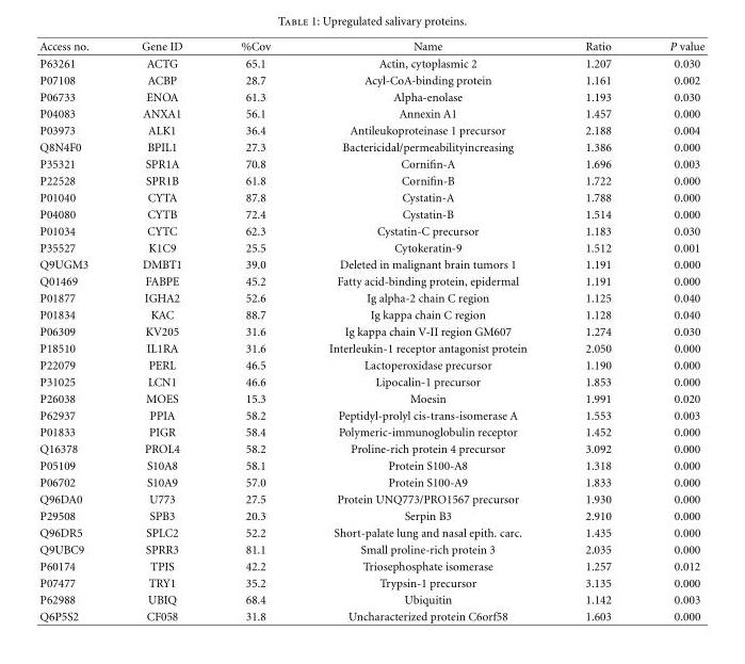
<table><thead><tr><td>Access no.</td><td>Gene ID</td><td>%Cov</td><td>Name</td><td>Ratio</td><td>P value</td></tr></thead><tbody><tr><td>P63261</td><td>ACTG</td><td>65.1</td><td>Actin, cytoplasmic 2</td><td>1.207</td><td>0.030</td></tr><tr><td>P07108</td><td>ACBP</td><td>28.7</td><td>Acyl-CoA-binding protein</td><td>1.161</td><td>0.002</td></tr><tr><td>P06733</td><td>ENOA</td><td>61.3</td><td>Alpha-enolase</td><td>1.193</td><td>0.030</td></tr><tr><td>P04083</td><td>ANXA1</td><td>56.1</td><td>Annexin A1</td><td>1.457</td><td>0.000</td></tr><tr><td>P03973</td><td>ALK1</td><td>36.4</td><td>Antileukoproteinase 1 precursor</td><td>2.188</td><td>0.004</td></tr><tr><td>Q8N4F0</td><td>BPIL1</td><td>27.3</td><td>Bactericidal/permeabilityincreasing</td><td>1.386</td><td>0.000</td></tr><tr><td>P35321</td><td>SPR1A</td><td>70.8</td><td>Cornifin-A</td><td>1.696</td><td>0.003</td></tr><tr><td>P22528</td><td>SPR1B</td><td>61.8</td><td>Cornifin-B</td><td>1.722</td><td>0.000</td></tr><tr><td>P01040</td><td>CYTA</td><td>87.8</td><td>Cystatin-A</td><td>1.788</td><td>0.000</td></tr><tr><td>P04080</td><td>CYTB</td><td>72.4</td><td>Cystatin-B</td><td>1.514</td><td>0.000</td></tr><tr><td>P01034</td><td>CYTC</td><td>62.3</td><td>Cystatin-C precursor</td><td>1.183</td><td>0.030</td></tr><tr><td>P35527</td><td>K1C9</td><td>25.5</td><td>Cytokeratin-9</td><td>1.512</td><td>0.001</td></tr><tr><td>Q9UGM3</td><td>DMBT1</td><td>39.0</td><td>Deleted in malignant brain tumors 1</td><td>1.191</td><td>0.000</td></tr><tr><td>Q01469</td><td>FABPE</td><td>45.2</td><td>Fatty acid-binding protein, epidermal</td><td>1.191</td><td>0.000</td></tr><tr><td>P01877</td><td>IGHA2</td><td>52.6</td><td>Ig alpha-2 chain C region</td><td>1.125</td><td>0.040</td></tr><tr><td>P01834</td><td>KAC</td><td>88.7</td><td>Ig kappa chain C region</td><td>1.128</td><td>0.040</td></tr><tr><td>P06309</td><td>KV205</td><td>31.6</td><td>Ig kappa chain V-II region GM607</td><td>1.274</td><td>0.030</td></tr><tr><td>P18510</td><td>IL1RA</td><td>31.6</td><td>Interleukin-1 receptor antagonist protein</td><td>2.050</td><td>0.000</td></tr><tr><td>P22079</td><td>PERL</td><td>46.5</td><td>Lactoperoxidase precursor</td><td>1.190</td><td>0.000</td></tr><tr><td>P31025</td><td>LCN1</td><td>46.6</td><td>Lipocalin-1 precursor</td><td>1.853</td><td>0.000</td></tr><tr><td>P26038</td><td>MOES</td><td>15.3</td><td>Moesin</td><td>1.991</td><td>0.020</td></tr><tr><td>P62937</td><td>PPIA</td><td>58.2</td><td>Peptidyl-prolyl cis-trans-isomerase A</td><td>1.553</td><td>0.003</td></tr><tr><td>P01833</td><td>PIGR</td><td>58.4</td><td>Polymeric-immunoglobulin receptor</td><td>1.452</td><td>0.000</td></tr><tr><td>Q16378</td><td>PROL4</td><td>58.2</td><td>Proline-rich protein 4 precursor</td><td>3.092</td><td>0.000</td></tr><tr><td>P05109</td><td>S10A8</td><td>58.1</td><td>Protein S100-A8</td><td>1.318</td><td>0.000</td></tr><tr><td>P06702</td><td>S10A9</td><td>57.0</td><td>Protein S100-A9</td><td>1.833</td><td>0.000</td></tr><tr><td>Q96DA0</td><td>U773</td><td>27.5</td><td>Protein UNQ773/PRO1567 precursor</td><td>1.930</td><td>0.000</td></tr><tr><td>P29508</td><td>SPB3</td><td>20.3</td><td>Serpin B3</td><td>2.910</td><td>0.000</td></tr><tr><td>Q96DR5</td><td>SPLC2</td><td>52.2</td><td>Short-palate lung and nasal epith. carc.</td><td>1.435</td><td>0.000</td></tr><tr><td>Q9UBC9</td><td>SPRR3</td><td>81.1</td><td>Small proline-rich protein 3</td><td>2.035</td><td>0.000</td></tr><tr><td>P60174</td><td>TPIS</td><td>42.2</td><td>Triosephosphate isomerase</td><td>1.257</td><td>0.012</td></tr><tr><td>P07477</td><td>TRY1</td><td>35.2</td><td>Trypsin-1 precursor</td><td>3.135</td><td>0.000</td></tr><tr><td>P62988</td><td>UBIQ</td><td>68.4</td><td>Ubiquitin</td><td>1.142</td><td>0.003</td></tr><tr><td>Q6P5S2</td><td>CF058</td><td>31.8</td><td>Uncharacterized protein C6orf58</td><td>1.603</td><td>0.000</td></tr></tbody></table>